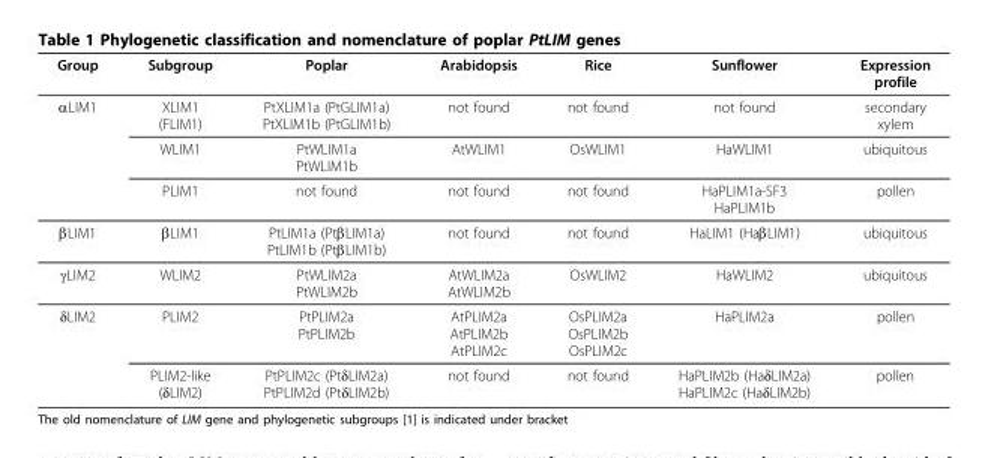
<table><thead><tr><td>Group</td><td>Subgroup</td><td>Poplar</td><td>Arabidopsis</td><td>Rice</td><td>Sunflower</td><td>Expression profile</td></tr></thead><tbody><tr><td rowspan="3">αLIM1</td><td>XLIM1 (FLIM1)</td><td>PtXLIM1a (PtGLIM1a) PtXLIM1b (PtGLIM1b)</td><td>not found</td><td>not found</td><td>not found</td><td>secondary xylem</td></tr><tr><td>WLIM1</td><td>PtWLIM1a PtWLIM1b</td><td>AtWLIM1</td><td>OsWLIM1</td><td>HaWLIM1</td><td>ubiquitous</td></tr><tr><td>PLIM1</td><td>not found</td><td>not found</td><td>not found</td><td>HaPLIM1a-SF3 HaPLIM1b</td><td>pollen</td></tr><tr><td>βLIM1</td><td>βLIM1</td><td>PtLIM1a (PtβLIM1a) PtLIM1b (PtβLIM1b)</td><td>not found</td><td>not found</td><td>HaLIM1 (HaβLIM1)</td><td>ubiquitous</td></tr><tr><td>γLIM2</td><td>WLIM2</td><td>PtWLIM2a PtWLIM2b</td><td>AtWLIM2a AtWLIM2b</td><td>OsWLIM2</td><td>HaWLIM2</td><td>ubiquitous</td></tr><tr><td rowspan="2">δLIM2</td><td>PLIM2</td><td>PtPLIM2a PtPLIM2b</td><td>AtPLIM2a AtPLIM2b AtPLIM2c</td><td>OsPLIM2a OsPLIM2b OsPLIM2c</td><td>HaPLIM2a</td><td>pollen</td></tr><tr><td>PLIM2-like (δLIM2)</td><td>PtPLIM2c (PtδLIM2a) PtPLIM2d (PtδLIM2b)</td><td>not found</td><td>not found</td><td>HaPLIM2b (HaδLIM2a) HaPLIM2c (HaδLIM2b)</td><td>pollen</td></tr></tbody></table>